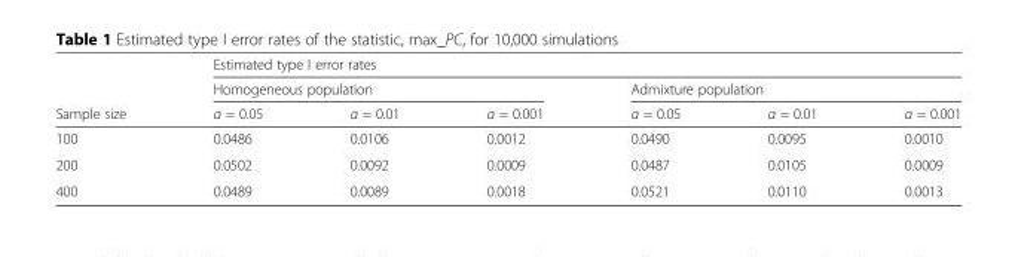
<table><thead><tr><td rowspan="3">Sample size</td><td colspan="6">Estimated type I error rates</td></tr><tr><td colspan="3">Homogeneous population</td><td colspan="3">Admixture population</td></tr><tr><td>α = 0.05</td><td>α = 0.01</td><td>α = 0.001</td><td>α = 0.05</td><td>α = 0.01</td><td>α = 0.001</td></tr></thead><tbody><tr><td>100</td><td>0.0486</td><td>0.0106</td><td>0.0012</td><td>0.0490</td><td>0.0095</td><td>0.0010</td></tr><tr><td>200</td><td>0.0502</td><td>0.0092</td><td>0.0009</td><td>0.0487</td><td>0.0105</td><td>0.0009</td></tr><tr><td>400</td><td>0.0489</td><td>0.0089</td><td>0.0018</td><td>0.0521</td><td>0.0110</td><td>0.0013</td></tr></tbody></table>